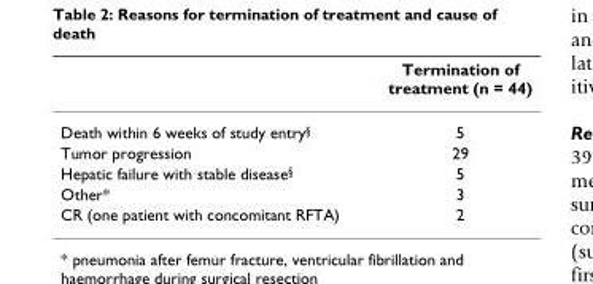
<table><thead><tr><td></td><td>Termination of treatment (n = 44)</td></tr></thead><tbody><tr><td>Death within 6 weeks of study entry<sup>§</sup></td><td>5</td></tr><tr><td>Tumor progression</td><td>29</td></tr><tr><td>Hepatic failure with stable disease<sup>§</sup></td><td>5</td></tr><tr><td>Other*</td><td>3</td></tr><tr><td>CR (one patient with concomitant RFTA)</td><td>2</td></tr></tbody></table>